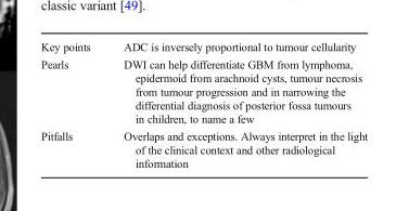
<table><tbody><tr><td>Key points</td><td>ADC is inversely proportional to tumour cellularity</td></tr><tr><td>Pearls</td><td>DWI can help differentiate GBM from lymphoma, epidermoid from arachnoid cysts, tumour necrosis from tumour progression and in narrowing the differential diagnosis of posterior fossa tumours in children, to name a few</td></tr><tr><td>Pitfalls</td><td>Overlaps and exceptions. Always interpret in the light of the clinical context and other radiological information</td></tr></tbody></table>